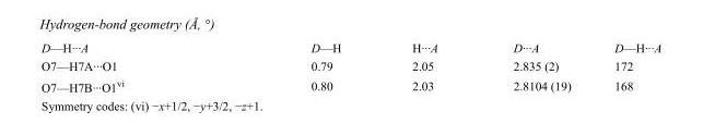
<table><tbody><tr><td>D—H···A</td><td>D—H</td><td>H···A</td><td>D···A</td><td>D—H···A</td></tr><tr><td>O7—H7A···O1</td><td>0.79</td><td>2.05</td><td>2.835 (2)</td><td>172</td></tr><tr><td>O7—H7B···O1<sup>vi</sup></td><td>0.80</td><td>2.03</td><td>2.8104 (19)</td><td>168</td></tr></tbody></table>